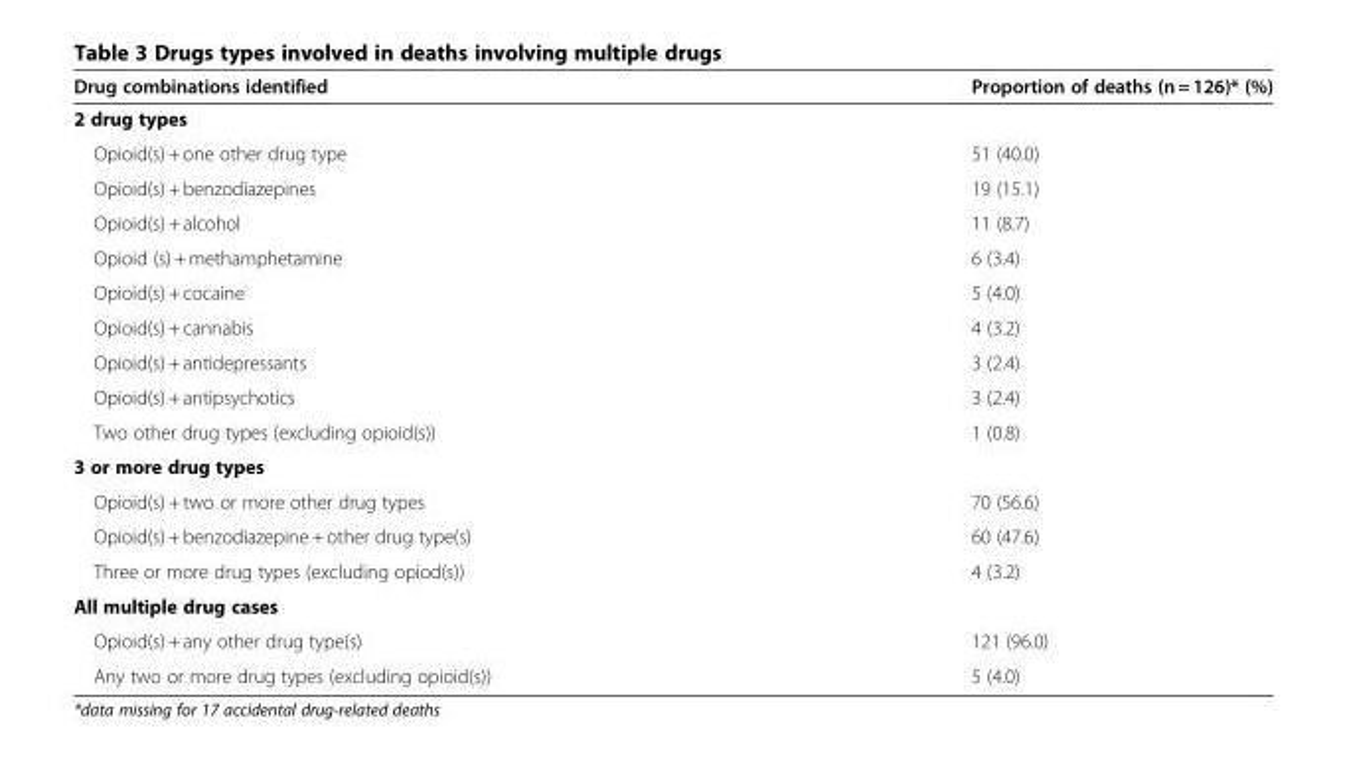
<table><thead><tr><td>Drug combinations identified</td><td>Proportion of deaths (n = 126)* (%)</td></tr></thead><tbody><tr><td colspan="2">2 drug types</td></tr><tr><td>Opioid(s) + one other drug type</td><td>51 (40.0)</td></tr><tr><td>Opioid(s) + benzodiazepines</td><td>19 (15.1)</td></tr><tr><td>Opioid(s) + alcohol</td><td>11 (8.7)</td></tr><tr><td>Opioid (s) + methamphetamine</td><td>6 (3.4)</td></tr><tr><td>Opioid(s) + cocaine</td><td>5 (4.0)</td></tr><tr><td>Opioid(s) + cannabis</td><td>4 (3.2)</td></tr><tr><td>Opioid(s) + antidepressants</td><td>3 (2.4)</td></tr><tr><td>Opioid(s) + antipsychotics</td><td>3 (2.4)</td></tr><tr><td>Two other drug types (excluding opioid(s))</td><td>1 (0.8)</td></tr><tr><td colspan="2">3 or more drug types</td></tr><tr><td>Opioid(s) + two or more other drug types</td><td>70 (56.6)</td></tr><tr><td>Opioid(s) + benzodiazepine + other drug type(s)</td><td>60 (47.6)</td></tr><tr><td>Three or more drug types (excluding opiod(s))</td><td>4 (3.2)</td></tr><tr><td colspan="2">All multiple drug cases</td></tr><tr><td>Opioid(s) + any other drug type(s)</td><td>121 (96.0)</td></tr><tr><td>Any two or more drug types (excluding opioid(s))</td><td>5 (4.0)</td></tr></tbody></table>